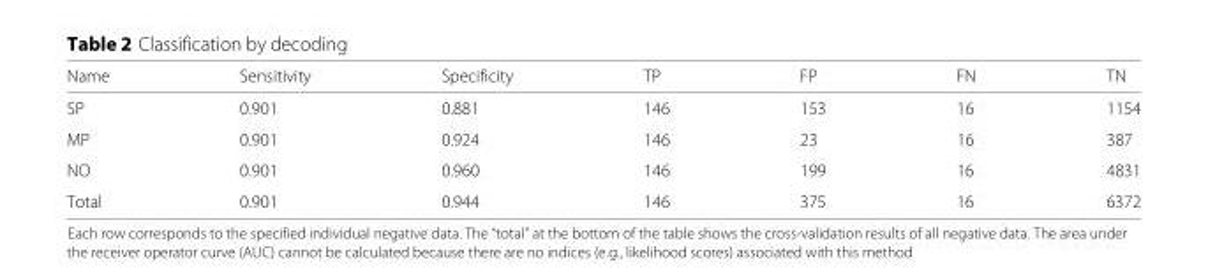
<table><thead><tr><td>Name</td><td>Sensitivity</td><td>Specificity</td><td>TP</td><td>FP</td><td>FN</td><td>TN</td></tr></thead><tbody><tr><td>SP</td><td>0.901</td><td>0.881</td><td>146</td><td>153</td><td>16</td><td>1154</td></tr><tr><td>MP</td><td>0.901</td><td>0.924</td><td>146</td><td>23</td><td>16</td><td>387</td></tr><tr><td>NO</td><td>0.901</td><td>0.960</td><td>146</td><td>199</td><td>16</td><td>4831</td></tr><tr><td>Total</td><td>0.901</td><td>0.944</td><td>146</td><td>375</td><td>16</td><td>6372</td></tr></tbody></table>